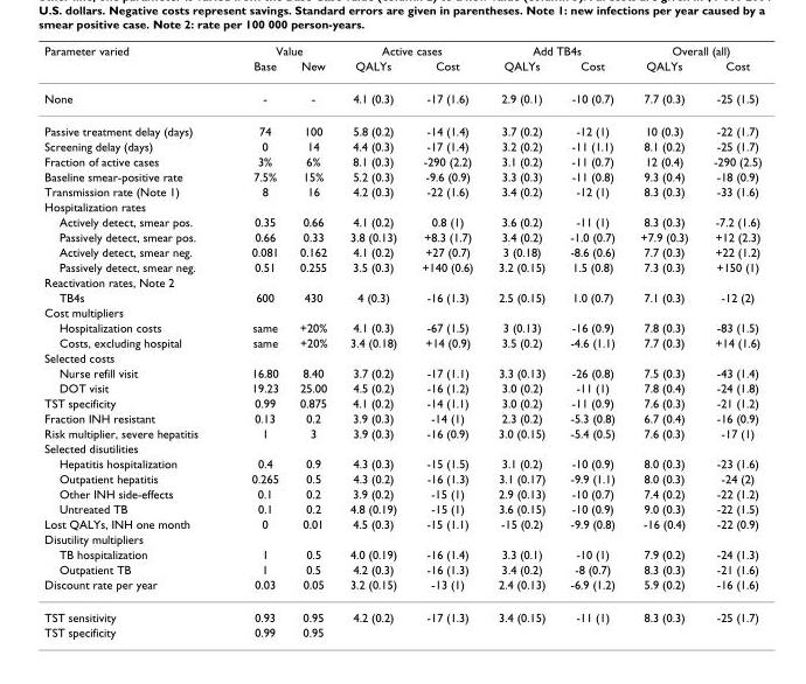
<table><thead><tr><td rowspan="2">Parameter varied</td><td colspan="2">Value</td><td colspan="2">Active cases</td><td colspan="2">Add TB4s</td><td colspan="2">Overall (all)</td></tr><tr><td>Base</td><td>New</td><td>QALYs</td><td>Cost</td><td>QALYs</td><td>Cost</td><td>QALYs</td><td>Cost</td></tr></thead><tbody><tr><td>None</td><td>-</td><td>-</td><td>4.1 (0.3)</td><td>-17 (1.6)</td><td>2.9 (0.1)</td><td>-10 (0.7)</td><td>7.7 (0.3)</td><td>-25 (1.5)</td></tr><tr><td>Passive treatment delay (days)</td><td>74</td><td>100</td><td>5.8 (0.2)</td><td>-14 (1.4)</td><td>3.7 (0.2)</td><td>-12 (1)</td><td>10 (0.3)</td><td>-22 (1.7)</td></tr><tr><td>Screening delay (days)</td><td>0</td><td>14</td><td>4.4 (0.3)</td><td>-17 (1.4)</td><td>3.2 (0.2)</td><td>-11 (1.1)</td><td>8.1 (0.2)</td><td>-25 (1.7)</td></tr><tr><td>Fraction of active cases</td><td>3%</td><td>6%</td><td>8.1 (0.3)</td><td>-290 (2.2)</td><td>3.1 (0.2)</td><td>-11 (0.7)</td><td>12 (0.4)</td><td>-290 (2.5)</td></tr><tr><td>Baseline smear-positive rate</td><td>7.5%</td><td>15%</td><td>5.2 (0.3)</td><td>-9.6 (0.9)</td><td>3.3 (0.3)</td><td>-11 (0.8)</td><td>9.3 (0.4)</td><td>-18 (0.9)</td></tr><tr><td>Transmission rate (Note 1)</td><td>8</td><td>16</td><td>4.2 (0.3)</td><td>-22 (1.6)</td><td>3.4 (0.2)</td><td>-12 (1)</td><td>8.3 (0.3)</td><td>-33 (1.6)</td></tr><tr><td colspan="9">Hospitalization rates</td></tr><tr><td>Actively detect, smear pos.</td><td>0.35</td><td>0.66</td><td>4.1 (0.2)</td><td>0.8 (1)</td><td>3.6 (0.2)</td><td>-11 (1)</td><td>8.3 (0.3)</td><td>-7.2 (1.6)</td></tr><tr><td>Passively detect, smear pos.</td><td>0.66</td><td>0.33</td><td>3.8 (0.13)</td><td>+8.3 (1.7)</td><td>3.4 (0.2)</td><td>-1.0 (0.7)</td><td>+7.9 (0.3)</td><td>+12 (2.3)</td></tr><tr><td>Actively detect, smear neg.</td><td>0.081</td><td>0.162</td><td>4.1 (0.2)</td><td>+27 (0.7)</td><td>3 (0.18)</td><td>-8.6 (0.6)</td><td>7.7 (0.3)</td><td>+22 (1.2)</td></tr><tr><td>Passively detect, smear neg.</td><td>0.51</td><td>0.255</td><td>3.5 (0.3)</td><td>+140 (0.6)</td><td>3.2 (0.15)</td><td>1.5 (0.8)</td><td>7.3 (0.3)</td><td>+150 (1)</td></tr><tr><td colspan="9">Reactivation rates, Note 2</td></tr><tr><td>TB4s</td><td>600</td><td>430</td><td>4 (0.3)</td><td>-16 (1.3)</td><td>2.5 (0.15)</td><td>1.0 (0.7)</td><td>7.1 (0.3)</td><td>-12 (2)</td></tr><tr><td colspan="9">Cost multipliers</td></tr><tr><td>Hospitalization costs</td><td>same</td><td>+20%</td><td>4.1 (0.3)</td><td>-67 (1.5)</td><td>3 (0.13)</td><td>-16 (0.9)</td><td>7.8 (0.3)</td><td>-83 (1.5)</td></tr><tr><td>Costs, excluding hospital</td><td>same</td><td>+20%</td><td>3.4 (0.18)</td><td>+14 (0.9)</td><td>3.5 (0.2)</td><td>-4.6 (1.1)</td><td>7.7 (0.3)</td><td>+14 (1.6)</td></tr><tr><td colspan="9">Selected costs</td></tr><tr><td>Nurse refill visit</td><td>16.80</td><td>8.40</td><td>3.7 (0.2)</td><td>-17 (1.1)</td><td>3.3 (0.13)</td><td>-26 (0.8)</td><td>7.5 (0.3)</td><td>-43 (1.4)</td></tr><tr><td>DOT visit</td><td>19.23</td><td>25.00</td><td>4.5 (0.2)</td><td>-16 (1.2)</td><td>3.0 (0.2)</td><td>-11 (1)</td><td>7.8 (0.4)</td><td>-24 (1.8)</td></tr><tr><td>TST specificity</td><td>0.99</td><td>0.875</td><td>4.1 (0.2)</td><td>-14 (1.1)</td><td>3.0 (0.2)</td><td>-11 (0.9)</td><td>7.6 (0.3)</td><td>-21 (1.2)</td></tr><tr><td>Fraction INH resistant</td><td>0.13</td><td>0.2</td><td>3.9 (0.3)</td><td>-14 (1)</td><td>2.3 (0.2)</td><td>-5.3 (0.8)</td><td>6.7 (0.4)</td><td>-16 (0.9)</td></tr><tr><td>Risk multiplier, severe hepatitis</td><td>1</td><td>3</td><td>3.9 (0.3)</td><td>-16 (0.9)</td><td>3.0 (0.15)</td><td>-5.4 (0.5)</td><td>7.6 (0.3)</td><td>-17 (1)</td></tr><tr><td colspan="9">Selected disutilities</td></tr><tr><td>Hepatitis hospitalization</td><td>0.4</td><td>0.9</td><td>4.3 (0.3)</td><td>-15 (1.5)</td><td>3.1 (0.2)</td><td>-10 (0.9)</td><td>8.0 (0.3)</td><td>-23 (1.6)</td></tr><tr><td>Outpatient hepatitis</td><td>0.265</td><td>0.5</td><td>4.3 (0.2)</td><td>-16 (1.3)</td><td>3.1 (0.17)</td><td>-9.9 (1.1)</td><td>8.0 (0.3)</td><td>-24 (2)</td></tr><tr><td>Other INH side-effects</td><td>0.1</td><td>0.2</td><td>3.9 (0.2)</td><td>-15 (1)</td><td>2.9 (0.13)</td><td>-10 (0.7)</td><td>7.4 (0.2)</td><td>-22 (1.2)</td></tr><tr><td>Untreated TB</td><td>0.1</td><td>0.2</td><td>4.8 (0.19)</td><td>-15 (1)</td><td>3.6 (0.15)</td><td>-10 (0.9)</td><td>9.0 (0.3)</td><td>-22 (1.5)</td></tr><tr><td>Lost QALYs, INH one month</td><td>0</td><td>0.01</td><td>4.5 (0.3)</td><td>-15 (1.1)</td><td>-15 (0.2)</td><td>-9.9 (0.8)</td><td>-16 (0.4)</td><td>-22 (0.9)</td></tr><tr><td colspan="9">Disutility multipliers</td></tr><tr><td>TB hospitalization</td><td>1</td><td>0.5</td><td>4.0 (0.19)</td><td>-16 (1.4)</td><td>3.3 (0.1)</td><td>-10 (1)</td><td>7.9 (0.2)</td><td>-24 (1.3)</td></tr><tr><td>Outpatient TB</td><td>1</td><td>0.5</td><td>4.2 (0.3)</td><td>-16 (1.3)</td><td>3.4 (0.2)</td><td>-8 (0.7)</td><td>8.3 (0.3)</td><td>-21 (1.6)</td></tr><tr><td>Discount rate per year</td><td>0.03</td><td>0.05</td><td>3.2 (0.15)</td><td>-13 (1)</td><td>2.4 (0.13)</td><td>-6.9 (1.2)</td><td>5.9 (0.2)</td><td>-16 (1.6)</td></tr><tr><td>TST sensitivity</td><td>0.93</td><td>0.95</td><td>4.2 (0.2)</td><td>-17 (1.3)</td><td>3.4 (0.15)</td><td>-11 (1)</td><td>8.3 (0.3)</td><td>-25 (1.7)</td></tr><tr><td>TST specificity</td><td>0.99</td><td>0.95</td><td></td><td></td><td></td><td></td><td></td><td></td></tr></tbody></table>